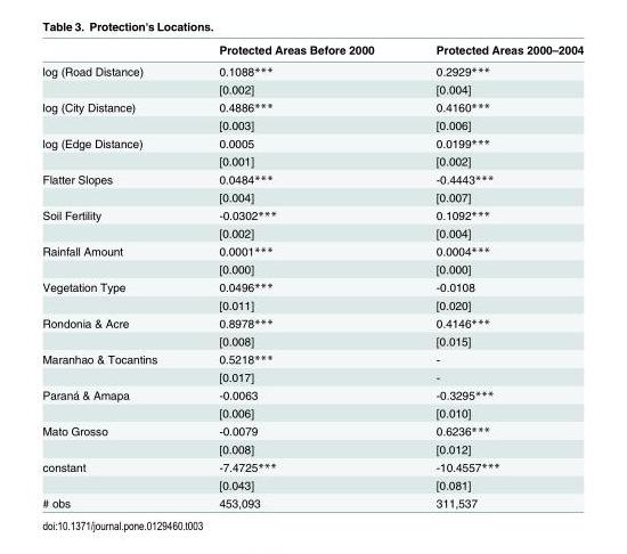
<table><thead><tr><td></td><td>Protected Areas Before 2000</td><td>Protected Areas 2000–2004</td></tr></thead><tbody><tr><td rowspan="2">log (Road Distance)</td><td>0.1088***</td><td>0.2929***</td></tr><tr><td>[0.002]</td><td>[0.004]</td></tr><tr><td rowspan="2">log (City Distance)</td><td>0.4886***</td><td>0.4160***</td></tr><tr><td>[0.003]</td><td>[0.006]</td></tr><tr><td rowspan="2">log (Edge Distance)</td><td>0.0005</td><td>0.0199***</td></tr><tr><td>[0.001]</td><td>[0.002]</td></tr><tr><td rowspan="2">Flatter Slopes</td><td>0.0484***</td><td>-0.4443***</td></tr><tr><td>[0.004]</td><td>[0.007]</td></tr><tr><td rowspan="2">Soil Fertility</td><td>-0.0302***</td><td>0.1092***</td></tr><tr><td>[0.002]</td><td>[0.004]</td></tr><tr><td rowspan="2">Rainfall Amount</td><td>0.0001***</td><td>0.0004***</td></tr><tr><td>[0.000]</td><td>[0.000]</td></tr><tr><td rowspan="2">Vegetation Type</td><td>0.0496***</td><td>-0.0108</td></tr><tr><td>[0.011]</td><td>[0.020]</td></tr><tr><td rowspan="2">Rondonia &amp; Acre</td><td>0.8978***</td><td>0.4146***</td></tr><tr><td>[0.008]</td><td>[0.015]</td></tr><tr><td rowspan="2">Maranhao &amp; Tocantins</td><td>0.5218***</td><td>-</td></tr><tr><td>[0.017]</td><td>-</td></tr><tr><td rowspan="2">Paraná &amp; Amapa</td><td>-0.0063</td><td>-0.3295***</td></tr><tr><td>[0.006]</td><td>[0.010]</td></tr><tr><td rowspan="2">Mato Grosso</td><td>-0.0079</td><td>0.6236***</td></tr><tr><td>[0.008]</td><td>[0.012]</td></tr><tr><td rowspan="2">constant</td><td>-7.4725***</td><td>-10.4557***</td></tr><tr><td>[0.043]</td><td>[0.081]</td></tr><tr><td># obs</td><td>453,093</td><td>311,537</td></tr></tbody></table>